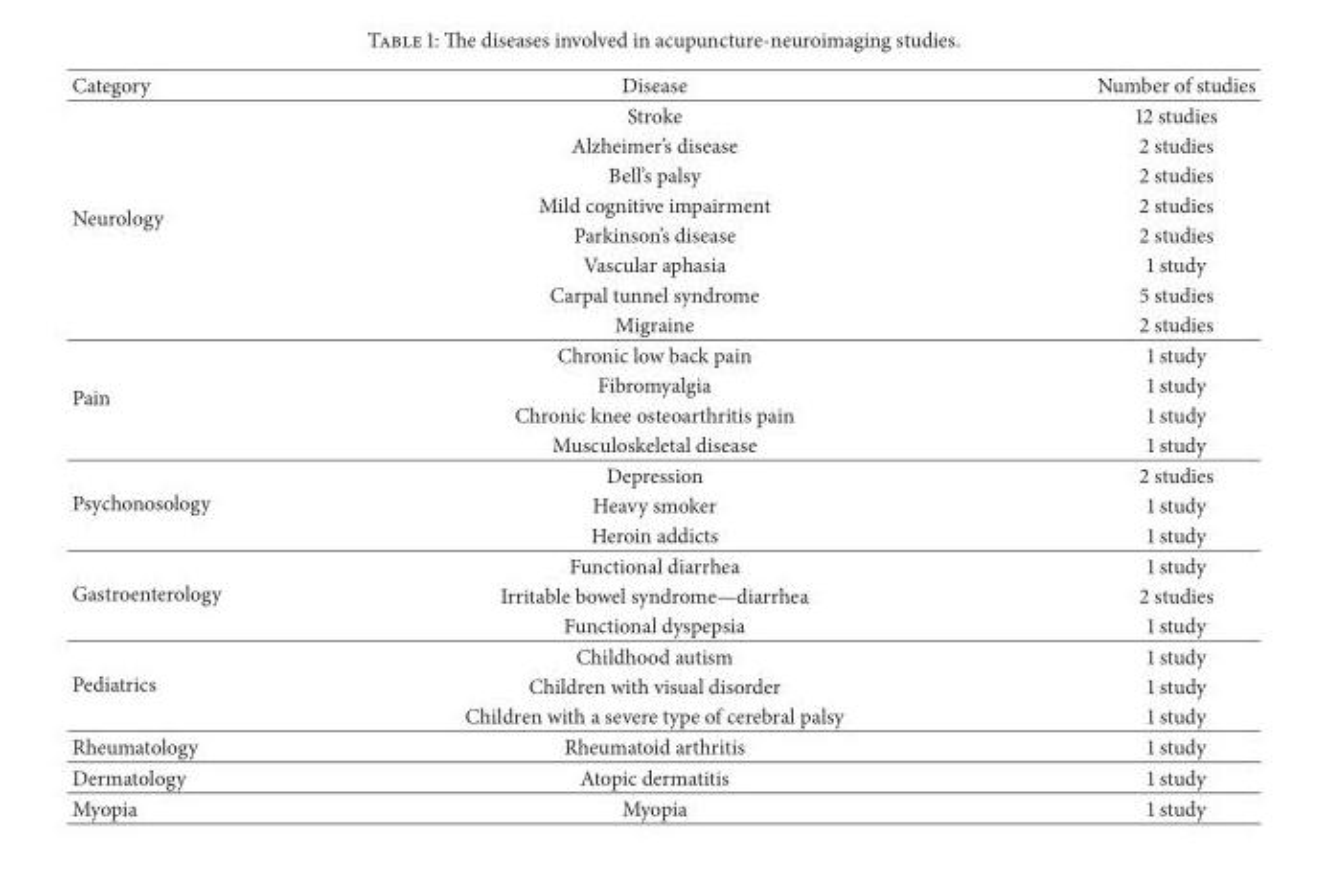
<table><thead><tr><td>Category</td><td>Disease</td><td>Number of studies</td></tr></thead><tbody><tr><td rowspan="8">Neurology</td><td>Stroke</td><td>12 studies</td></tr><tr><td>Alzheimer’s disease</td><td>2 studies</td></tr><tr><td>Bell’s palsy</td><td>2 studies</td></tr><tr><td>Mild cognitive impairment</td><td>2 studies</td></tr><tr><td>Parkinson’s disease</td><td>2 studies</td></tr><tr><td>Vascular aphasia</td><td>1 study</td></tr><tr><td>Carpal tunnel syndrome</td><td>5 studies</td></tr><tr><td>Migraine</td><td>2 studies</td></tr><tr><td rowspan="4">Pain</td><td>Chronic low back pain</td><td>1 study</td></tr><tr><td>Fibromyalgia</td><td>1 study</td></tr><tr><td>Chronic knee osteoarthritis pain</td><td>1 study</td></tr><tr><td>Musculoskeletal disease</td><td>1 study</td></tr><tr><td rowspan="3">Psychonosology</td><td>Depression</td><td>2 studies</td></tr><tr><td>Heavy smoker</td><td>1 study</td></tr><tr><td>Heroin addicts</td><td>1 study</td></tr><tr><td rowspan="3">Gastroenterology</td><td>Functional diarrhea</td><td>1 study</td></tr><tr><td>Irritable bowel syndrome—diarrhea</td><td>2 studies</td></tr><tr><td>Functional dyspepsia</td><td>1 study</td></tr><tr><td rowspan="3">Pediatrics</td><td>Childhood autism</td><td>1 study</td></tr><tr><td>Children with visual disorder</td><td>1 study</td></tr><tr><td>Children with a severe type of cerebral palsy</td><td>1 study</td></tr><tr><td>Rheumatology</td><td>Rheumatoid arthritis</td><td>1 study</td></tr><tr><td>Dermatology</td><td>Atopic dermatitis</td><td>1 study</td></tr><tr><td>Myopia</td><td>Myopia</td><td>1 study</td></tr></tbody></table>